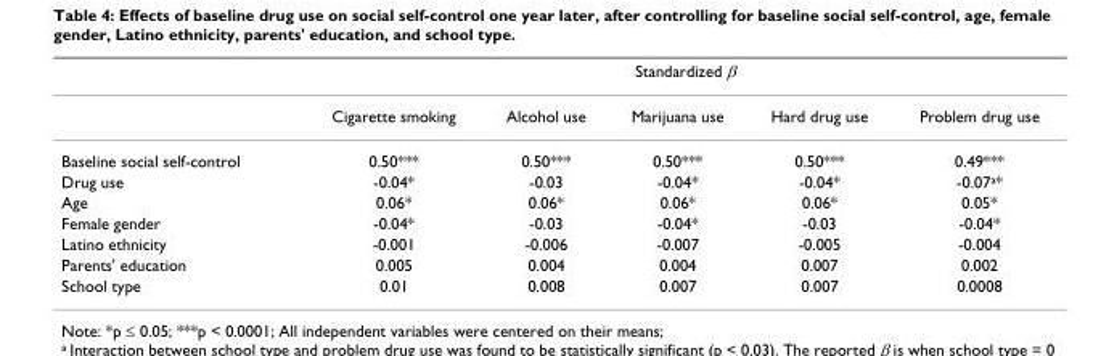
<table><thead><tr><td rowspan="2"></td><td colspan="5">Standardized β</td></tr><tr><td>Cigarette smoking</td><td>Alcohol use</td><td>Marijuana use</td><td>Hard drug use</td><td>Problem drug use</td></tr></thead><tbody><tr><td>Baseline social self-control</td><td>0.50***</td><td>0.50***</td><td>0.50***</td><td>0.50***</td><td>0.49***</td></tr><tr><td>Drug use</td><td>-0.04*</td><td>-0.03</td><td>-0.04*</td><td>-0.04*</td><td>-0.07<sup>a</sup>*</td></tr><tr><td>Age</td><td>0.06*</td><td>0.06*</td><td>0.06*</td><td>0.06*</td><td>0.05*</td></tr><tr><td>Female gender</td><td>-0.04*</td><td>-0.03</td><td>-0.04*</td><td>-0.03</td><td>-0.04*</td></tr><tr><td>Latino ethnicity</td><td>-0.001</td><td>-0.006</td><td>-0.007</td><td>-0.005</td><td>-0.004</td></tr><tr><td>Parents&#x27; education</td><td>0.005</td><td>0.004</td><td>0.004</td><td>0.007</td><td>0.002</td></tr><tr><td>School type</td><td>0.01</td><td>0.008</td><td>0.007</td><td>0.007</td><td>0.0008</td></tr></tbody></table>